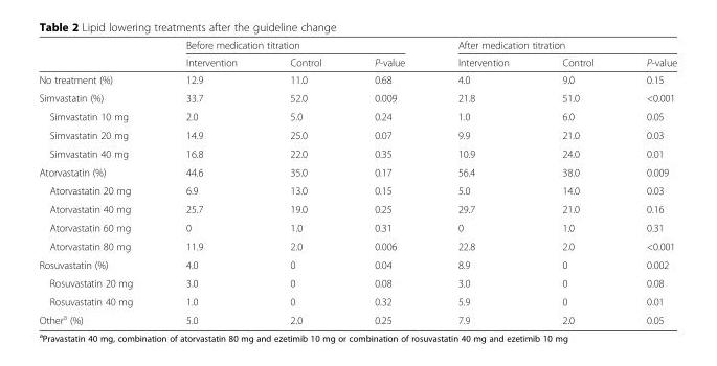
<table><thead><tr><td rowspan="2"></td><td colspan="3">Before medication titration</td><td colspan="3">After medication titration</td></tr><tr><td>Intervention</td><td>Control</td><td>P-value</td><td>Intervention</td><td>Control</td><td>P-value</td></tr></thead><tbody><tr><td>No treatment (%)</td><td>12.9</td><td>11.0</td><td>0.68</td><td>4.0</td><td>9.0</td><td>0.15</td></tr><tr><td>Simvastatin (%)</td><td>33.7</td><td>52.0</td><td>0.009</td><td>21.8</td><td>51.0</td><td>&lt;0.001</td></tr><tr><td>Simvastatin 10 mg</td><td>2.0</td><td>5.0</td><td>0.24</td><td>1.0</td><td>6.0</td><td>0.05</td></tr><tr><td>Simvastatin 20 mg</td><td>14.9</td><td>25.0</td><td>0.07</td><td>9.9</td><td>21.0</td><td>0.03</td></tr><tr><td>Simvastatin 40 mg</td><td>16.8</td><td>22.0</td><td>0.35</td><td>10.9</td><td>24.0</td><td>0.01</td></tr><tr><td>Atorvastatin (%)</td><td>44.6</td><td>35.0</td><td>0.17</td><td>56.4</td><td>38.0</td><td>0.009</td></tr><tr><td>Atorvastatin 20 mg</td><td>6.9</td><td>13.0</td><td>0.15</td><td>5.0</td><td>14.0</td><td>0.03</td></tr><tr><td>Atorvastatin 40 mg</td><td>25.7</td><td>19.0</td><td>0.25</td><td>29.7</td><td>21.0</td><td>0.16</td></tr><tr><td>Atorvastatin 60 mg</td><td>0</td><td>1.0</td><td>0.31</td><td>0</td><td>1.0</td><td>0.31</td></tr><tr><td>Atorvastatin 80 mg</td><td>11.9</td><td>2.0</td><td>0.006</td><td>22.8</td><td>2.0</td><td>&lt;0.001</td></tr><tr><td>Rosuvastatin (%)</td><td>4.0</td><td>0</td><td>0.04</td><td>8.9</td><td>0</td><td>0.002</td></tr><tr><td>Rosuvastatin 20 mg</td><td>3.0</td><td>0</td><td>0.08</td><td>3.0</td><td>0</td><td>0.08</td></tr><tr><td>Rosuvastatin 40 mg</td><td>1.0</td><td>0</td><td>0.32</td><td>5.9</td><td>0</td><td>0.01</td></tr><tr><td>Other<sup>a</sup> (%)</td><td>5.0</td><td>2.0</td><td>0.25</td><td>7.9</td><td>2.0</td><td>0.05</td></tr></tbody></table>